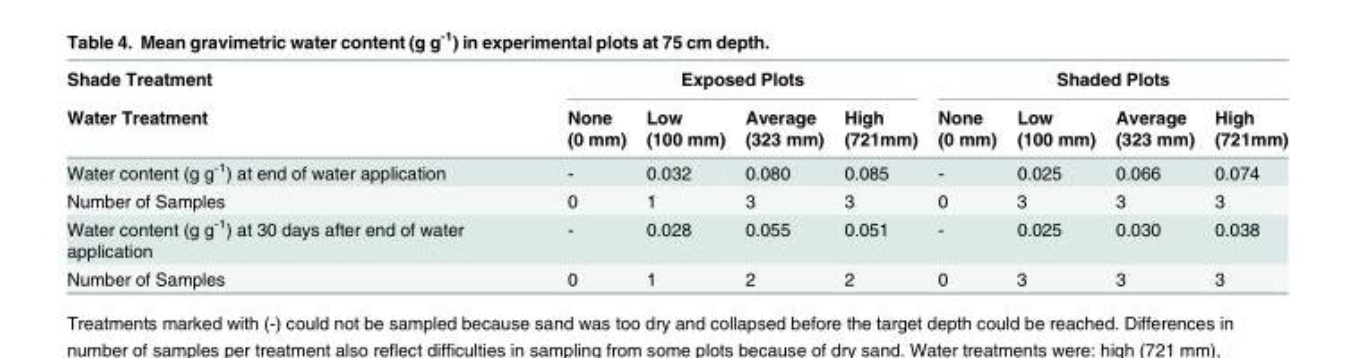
<table><thead><tr><td rowspan="2">Shade Treatment Water Treatment</td><td colspan="4">Exposed Plots</td><td colspan="4">Shaded Plots</td></tr><tr><td>None (0 mm)</td><td>Low (100 mm)</td><td>Average (323 mm)</td><td>High (721mm)</td><td>None (0 mm)</td><td>Low (100 mm)</td><td>Average (323 mm)</td><td>High (721mm)</td></tr></thead><tbody><tr><td>Water content (g g<sup>-1</sup>) at end of water application</td><td>-</td><td>0.032</td><td>0.080</td><td>0.085</td><td>-</td><td>0.025</td><td>0.066</td><td>0.074</td></tr><tr><td>Number of Samples</td><td>0</td><td>1</td><td>3</td><td>3</td><td>0</td><td>3</td><td>3</td><td>3</td></tr><tr><td>Water content (g g<sup>-1</sup>) at 30 days after end of water application</td><td>-</td><td>0.028</td><td>0.055</td><td>0.051</td><td>-</td><td>0.025</td><td>0.030</td><td>0.038</td></tr><tr><td>Number of Samples</td><td>0</td><td>1</td><td>2</td><td>2</td><td>0</td><td>3</td><td>3</td><td>3</td></tr></tbody></table>